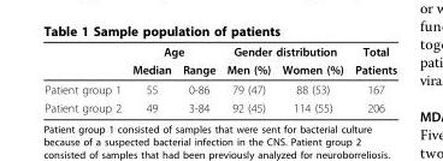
<table><thead><tr><td rowspan="2"></td><td colspan="2">Age</td><td colspan="2">Gender distribution</td><td rowspan="2">Total Patients</td></tr><tr><td>Median</td><td>Range</td><td>Men (%)</td><td>Women (%)</td></tr></thead><tbody><tr><td>Patient group 1</td><td>55</td><td>0-86</td><td>79 (47)</td><td>88 (53)</td><td>167</td></tr><tr><td>Patient group 2</td><td>49</td><td>3-84</td><td>92 (45)</td><td>114 (55)</td><td>206</td></tr></tbody></table>